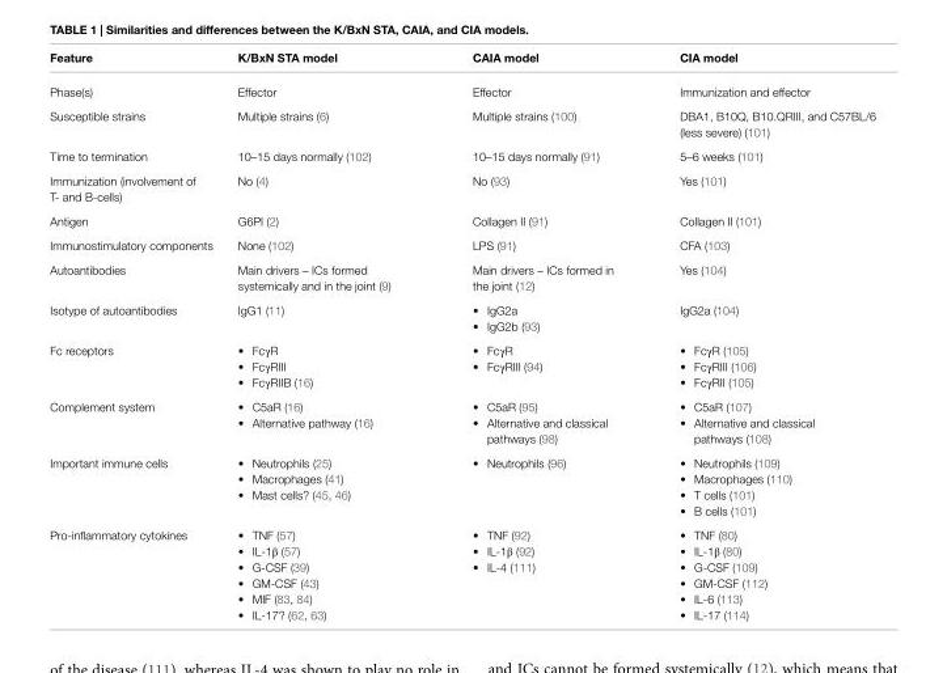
<table><thead><tr><td>Feature</td><td>K/BxN STA model</td><td>CAiA model</td><td>CiA model</td></tr></thead><tbody><tr><td>Phase(s)</td><td>Effector</td><td>Effector</td><td>Immunization and effector</td></tr><tr><td>Susceptible strains</td><td>Multiple strains (6)</td><td>Multiple strains (100)</td><td>DBA1, B10Q, B10.QRIII, and C57BL/6 (less severe) (101)</td></tr><tr><td>Time to termination</td><td>10–15 days normally (102)</td><td>10–15 days normally (91)</td><td>5–6 weeks (101)</td></tr><tr><td>Immunization (involvement of T- and B-cells)</td><td>No (4)</td><td>No (93)</td><td>Yes (101)</td></tr><tr><td>Antigen</td><td>G6PI (2)</td><td>Collagen II (91)</td><td>Collagen II (101)</td></tr><tr><td>Immunostimulatory components</td><td>None (102)</td><td>LPS (91)</td><td>CFA (103)</td></tr><tr><td>Autoantibodies</td><td>Main drivers – ICs formed systemically and in the joint (9)</td><td>Main drivers – ICs formed in the joint (12)</td><td>Yes (104)</td></tr><tr><td>Isotype of autoantibodies</td><td>IgG1 (11)</td><td>• IgG2a • IgG2b (93)</td><td>IgG2a (104)</td></tr><tr><td>Fc receptors</td><td>• FcγR • FcγRIII • FcγRIIB (16)</td><td>• FcγR • FcγRIII (94)</td><td>• FcγR (105) • FcγRIII (106) • FcγRII (105)</td></tr><tr><td>Complement system</td><td>• C5aR (16) • Alternative pathway (16)</td><td>• C5aR (95) • Alternative and classical pathways (98)</td><td>• C5aR (107) • Alternative and classical pathways (108)</td></tr><tr><td>Important immune cells</td><td>• Neutrophils (25) • Macrophages (41) • Mast cells? (45, 46)</td><td>• Neutrophils (96)</td><td>• Neutrophils (109) • Macrophages (110) • T cells (101) • B cells (101)</td></tr><tr><td>Pro-inflammatory cytokines</td><td>• TNF (57) • IL-1β (57) • G-CSF (39) • GM-CSF (43) • MIF (83, 84) • IL-17? (62, 63)</td><td>• TNF (92) • IL-1β (92) • IL-4 (111)</td><td>• TNF (80) • IL-1β (80) • G-CSF (109) • GM-CSF (112) • IL-6 (113) • IL-17 (114)</td></tr></tbody></table>